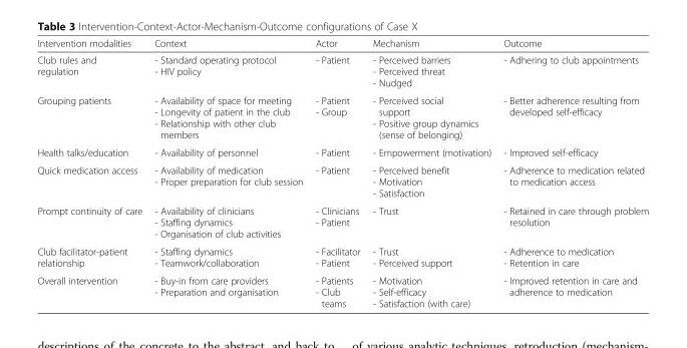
<table><thead><tr><td>Intervention modalities</td><td>Context</td><td>Actor</td><td>Mechanism</td><td>Outcome</td></tr></thead><tbody><tr><td>Club rules and regulation</td><td>- Standard operating protocol - HIV policy</td><td>- Patient</td><td>- Perceived barriers - Perceived threat - Nudged</td><td>- Adhering to club appointments</td></tr><tr><td>Grouping patients</td><td>- Availability of space for meeting - Longevity of patient in the club - Relationship with other club members</td><td>- Patient - Group</td><td>- Perceived social support - Positive group dynamics (sense of belonging)</td><td>- Better adherence resulting from developed self-efficacy</td></tr><tr><td>Health talks/education</td><td>- Availability of personnel</td><td>- Patient</td><td>- Empowerment (motivation)</td><td>- Improved self-efficacy</td></tr><tr><td>Quick medication access</td><td>- Availability of medication - Proper preparation for club session</td><td>- Patient</td><td>- Perceived benefit - Motivation - Satisfaction</td><td>- Adherence to medication related to medication access</td></tr><tr><td>Prompt continuity of care</td><td>- Availability of clinicians - Staffing dynamics - Organisation of club activities</td><td>- Clinicians - Patient</td><td>- Trust</td><td>- Retained in care through problem resolution</td></tr><tr><td>Club facilitator-patient relationship</td><td>- Staffing dynamics - Teamwork/collaboration</td><td>- Facilitator - Patient</td><td>- Trust - Perceived support</td><td>- Adherence to medication - Retention in care</td></tr><tr><td>Overall intervention</td><td>- Buy-in from care providers - Preparation and organisation</td><td>- Patients - Club teams</td><td>- Motivation - Self-efficacy - Satisfaction (with care)</td><td>- Improved retention in care and adherence to medication</td></tr></tbody></table>